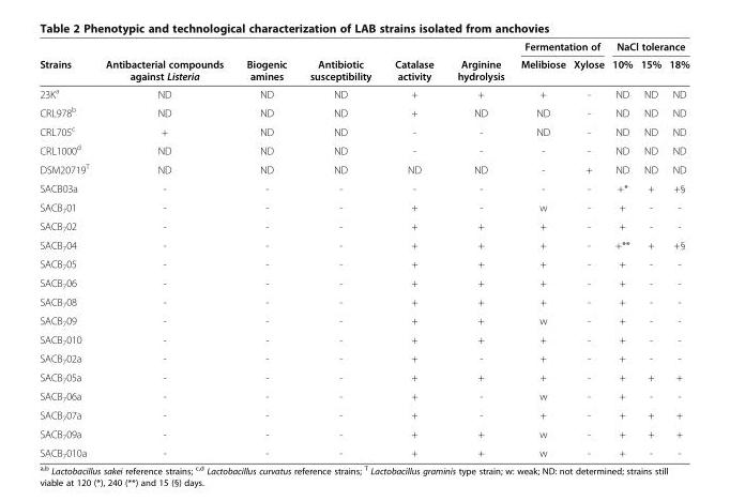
<table><thead><tr><td rowspan="2">Strains</td><td rowspan="2">Antibacterial compounds against Listeria</td><td rowspan="2">Biogenic amines</td><td rowspan="2">Antibiotic susceptibility</td><td rowspan="2">Catalase activity</td><td rowspan="2">Arginine hydrolysis</td><td colspan="2">Fermentation of</td><td colspan="3">NaCl tolerance</td></tr><tr><td>Melibiose</td><td>Xylose</td><td>10%</td><td>15%</td><td>18%</td></tr></thead><tbody><tr><td>23K<sup>a</sup></td><td>ND</td><td>ND</td><td>ND</td><td>+</td><td>+</td><td>+</td><td>-</td><td>ND</td><td>ND</td><td>ND</td></tr><tr><td>CRL978<sup>b</sup></td><td>ND</td><td>ND</td><td>ND</td><td>+</td><td>ND</td><td>ND</td><td>-</td><td>ND</td><td>ND</td><td>ND</td></tr><tr><td>CRL705<sup>c</sup></td><td>+</td><td>ND</td><td>ND</td><td>-</td><td>-</td><td>ND</td><td>-</td><td>ND</td><td>ND</td><td>ND</td></tr><tr><td>CRL1000<sup>d</sup></td><td>ND</td><td>ND</td><td>ND</td><td>-</td><td>-</td><td>-</td><td>-</td><td>ND</td><td>ND</td><td>ND</td></tr><tr><td>DSM20719<sup>T</sup></td><td>ND</td><td>ND</td><td>ND</td><td>ND</td><td>ND</td><td>-</td><td>+</td><td>ND</td><td>ND</td><td>ND</td></tr><tr><td>SACB03a</td><td>-</td><td>-</td><td>-</td><td>-</td><td>-</td><td>-</td><td>-</td><td>+*</td><td>+</td><td>+§</td></tr><tr><td>SACB<sub>7</sub>01</td><td>-</td><td>-</td><td>-</td><td>+</td><td>-</td><td>w</td><td>-</td><td>+</td><td>-</td><td>-</td></tr><tr><td>SACB<sub>7</sub>02</td><td>-</td><td>-</td><td>-</td><td>+</td><td>+</td><td>+</td><td>-</td><td>+</td><td>-</td><td>-</td></tr><tr><td>SACB<sub>7</sub>04</td><td>-</td><td>-</td><td>-</td><td>+</td><td>+</td><td>+</td><td>-</td><td>+**</td><td>+</td><td>+§</td></tr><tr><td>SACB<sub>7</sub>05</td><td>-</td><td>-</td><td>-</td><td>+</td><td>+</td><td>+</td><td>-</td><td>+</td><td>-</td><td>-</td></tr><tr><td>SACB<sub>7</sub>06</td><td>-</td><td>-</td><td>-</td><td>+</td><td>+</td><td>+</td><td>-</td><td>+</td><td>-</td><td>-</td></tr><tr><td>SACB<sub>7</sub>08</td><td>-</td><td>-</td><td>-</td><td>+</td><td>+</td><td>+</td><td>-</td><td>+</td><td>-</td><td>-</td></tr><tr><td>SACB<sub>7</sub>09</td><td>-</td><td>-</td><td>-</td><td>+</td><td>+</td><td>w</td><td>-</td><td>+</td><td>-</td><td>-</td></tr><tr><td>SACB<sub>7</sub>010</td><td>-</td><td>-</td><td>-</td><td>+</td><td>+</td><td>+</td><td>-</td><td>+</td><td>-</td><td>-</td></tr><tr><td>SACB<sub>7</sub>02a</td><td>-</td><td>-</td><td>-</td><td>+</td><td>-</td><td>+</td><td>-</td><td>+</td><td>-</td><td>-</td></tr><tr><td>SACB<sub>7</sub>05a</td><td>-</td><td>-</td><td>-</td><td>+</td><td>+</td><td>+</td><td>-</td><td>+</td><td>+</td><td>+</td></tr><tr><td>SACB<sub>7</sub>06a</td><td>-</td><td>-</td><td>-</td><td>+</td><td>-</td><td>w</td><td>-</td><td>+</td><td>-</td><td>-</td></tr><tr><td>SACB<sub>7</sub>07a</td><td>-</td><td>-</td><td>-</td><td>+</td><td>-</td><td>+</td><td>-</td><td>+</td><td>+</td><td>+</td></tr><tr><td>SACB<sub>7</sub>09a</td><td>-</td><td>-</td><td>-</td><td>+</td><td>+</td><td>w</td><td>-</td><td>+</td><td>+</td><td>+</td></tr><tr><td>SACB<sub>7</sub>010a</td><td>-</td><td>-</td><td>-</td><td>+</td><td>+</td><td>w</td><td>-</td><td>+</td><td>-</td><td>-</td></tr></tbody></table>